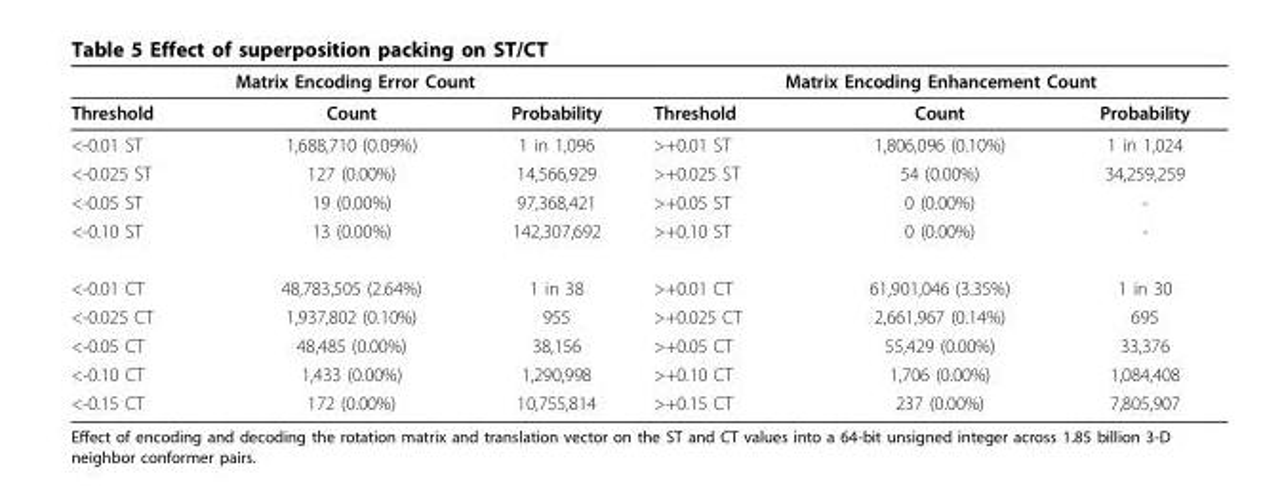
<table><thead><tr><td colspan="3">Matrix Encoding Error Count</td><td colspan="3">Matrix Encoding Enhancement Count</td></tr><tr><td>Threshold</td><td>Count</td><td>Probability</td><td>Threshold</td><td>Count</td><td>Probability</td></tr></thead><tbody><tr><td>&lt;-0.01 ST</td><td>1,688,710 (0.09%)</td><td>1 in 1,096</td><td>&gt;+0.01 ST</td><td>1,806,096 (0.10%)</td><td>1 in 1,024</td></tr><tr><td>&lt;-0.025 ST</td><td>127 (0.00%)</td><td>14,566,929</td><td>&gt;+0.025 ST</td><td>54 (0.00%)</td><td>34,259,259</td></tr><tr><td>&lt;-0.05 ST</td><td>19 (0.00%)</td><td>97,368,421</td><td>&gt;+0.05 ST</td><td>0 (0.00%)</td><td>-</td></tr><tr><td>&lt;-0.10 ST</td><td>13 (0.00%)</td><td>142,307,692</td><td>&gt;+0.10 ST</td><td>0 (0.00%)</td><td>-</td></tr><tr><td>&lt;-0.01 CT</td><td>48,783,505 (2.64%)</td><td>1 in 38</td><td>&gt;+0.01 CT</td><td>61,901,046 (3.35%)</td><td>1 in 30</td></tr><tr><td>&lt;-0.025 CT</td><td>1,937,802 (0.10%)</td><td>955</td><td>&gt;+0.025 CT</td><td>2,661,967 (0.14%)</td><td>695</td></tr><tr><td>&lt;-0.05 CT</td><td>48,485 (0.00%)</td><td>38,156</td><td>&gt;+0.05 CT</td><td>55,429 (0.00%)</td><td>33,376</td></tr><tr><td>&lt;-0.10 CT</td><td>1,433 (0.00%)</td><td>1,290,998</td><td>&gt;+0.10 CT</td><td>1,706 (0.00%)</td><td>1,084,408</td></tr><tr><td>&lt;-0.15 CT</td><td>172 (0.00%)</td><td>10,755,814</td><td>&gt;+0.15 CT</td><td>237 (0.00%)</td><td>7,805,907</td></tr></tbody></table>